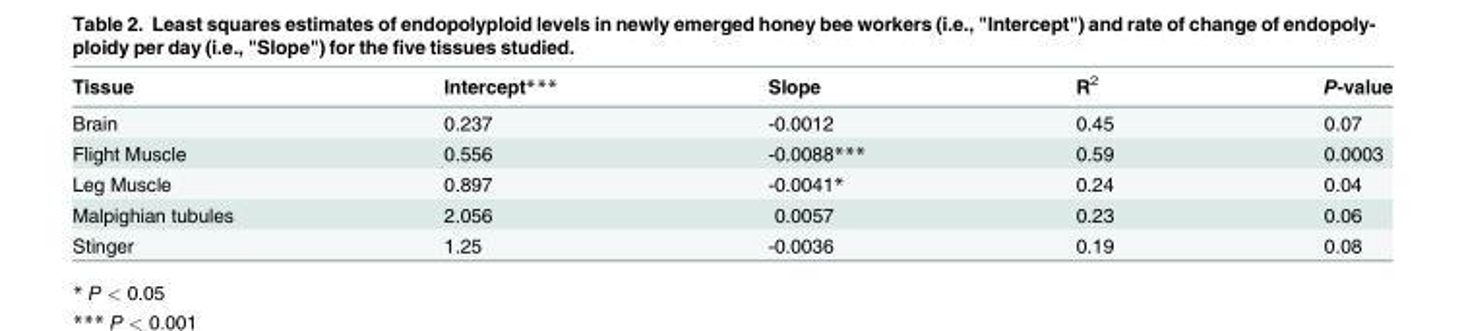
<table><thead><tr><td>Tissue</td><td>Intercept***</td><td>Slope</td><td>R<sup>2</sup></td><td>P-value</td></tr></thead><tbody><tr><td>Brain</td><td>0.237</td><td>-0.0012</td><td>0.45</td><td>0.07</td></tr><tr><td>Flight Muscle</td><td>0.556</td><td>-0.0088***</td><td>0.59</td><td>0.0003</td></tr><tr><td>Leg Muscle</td><td>0.897</td><td>-0.0041*</td><td>0.24</td><td>0.04</td></tr><tr><td>Malpighian tubules</td><td>2.056</td><td>0.0057</td><td>0.23</td><td>0.06</td></tr><tr><td>Stinger</td><td>1.25</td><td>-0.0036</td><td>0.19</td><td>0.08</td></tr></tbody></table>